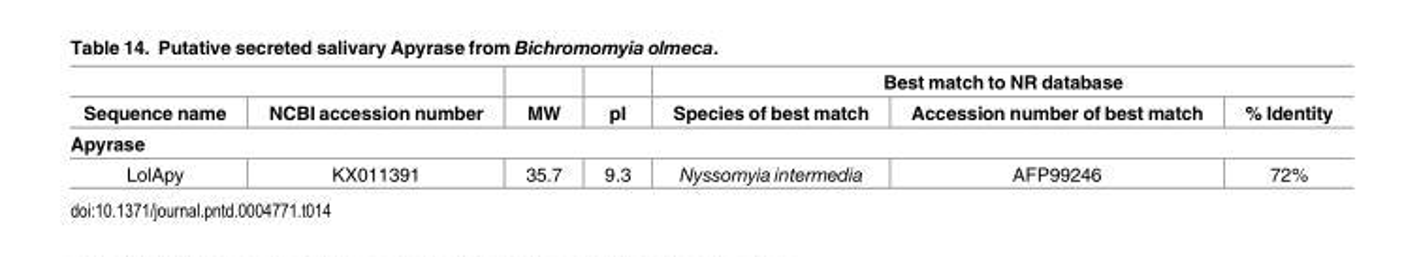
<table><thead><tr><td rowspan="2">Sequence name</td><td rowspan="2">NCBI accession number</td><td rowspan="2">MW</td><td rowspan="2">pI</td><td colspan="3">Best match to NR database</td></tr><tr><td>Species of best match</td><td>Accession number of best match</td><td>% Identity</td></tr><tr><td colspan="7">Apyrase</td></tr></thead><tbody><tr><td>LolApy</td><td>KX011391</td><td>35.7</td><td>9.3</td><td>Nyssomyia intermedia</td><td>AFP99246</td><td>72%</td></tr></tbody></table>